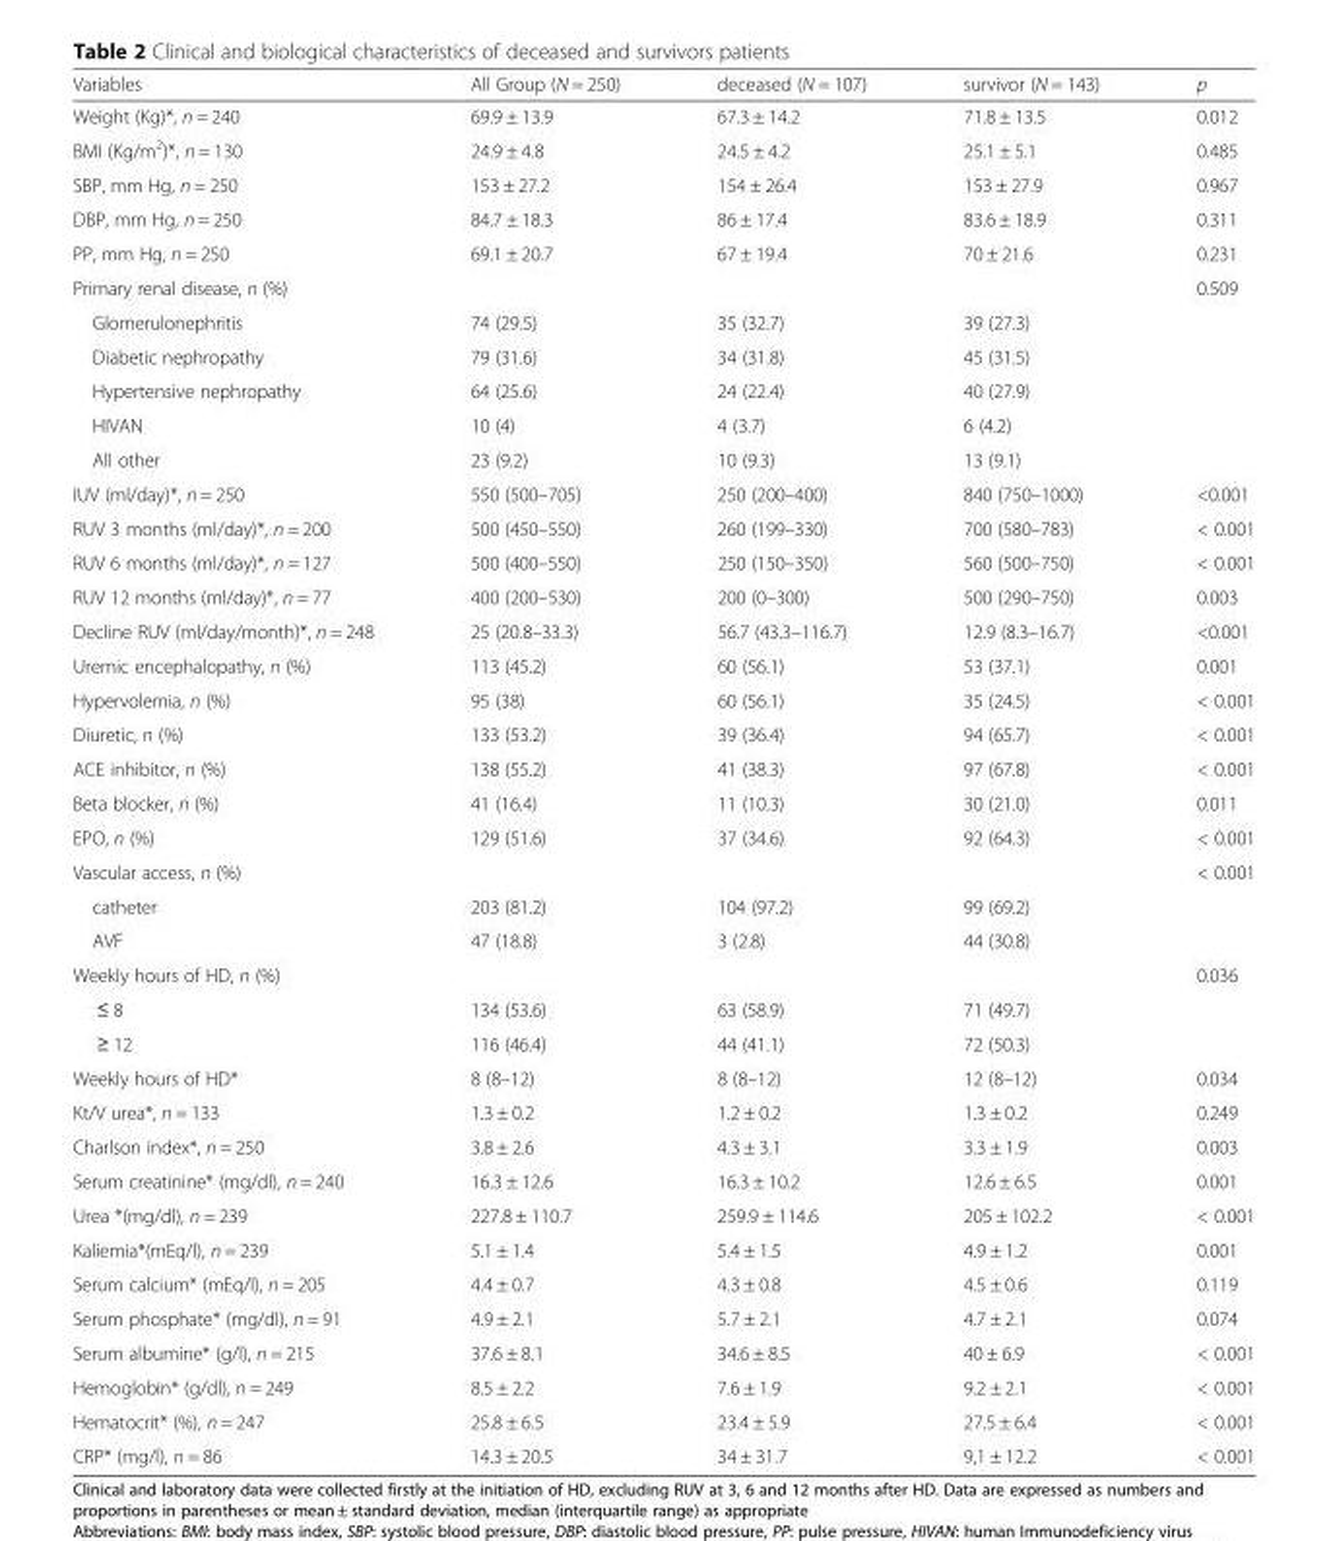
<table><thead><tr><td>Variables</td><td>All Group (N = 250)</td><td>deceased (N = 107)</td><td>survivor (N = 143)</td><td>p</td></tr></thead><tbody><tr><td>Weight (Kg)*, n = 240</td><td>69.9 ± 13.9</td><td>67.3 ± 14.2</td><td>71.8 ± 13.5</td><td>0.012</td></tr><tr><td>BMI (Kg/m<sup>2</sup>)*, n = 130</td><td>24.9 ± 4.8</td><td>24.5 ± 4.2</td><td>25.1 ± 5.1</td><td>0.485</td></tr><tr><td>SBP, mm Hg, n = 250</td><td>153 ± 27.2</td><td>154 ± 26.4</td><td>153 ± 27.9</td><td>0.967</td></tr><tr><td>DBP, mm Hg, n = 250</td><td>84.7 ± 18.3</td><td>86 ± 17.4</td><td>83.6 ± 18.9</td><td>0.311</td></tr><tr><td>PP, mm Hg, n = 250</td><td>69.1 ± 20.7</td><td>67 ± 19.4</td><td>70 ± 21.6</td><td>0.231</td></tr><tr><td colspan="4">Primary renal disease, n (%)</td><td rowspan="6">0.509</td></tr><tr><td>Glomerulonephritis</td><td>74 (29.5)</td><td>35 (32.7)</td><td>39 (27.3)</td></tr><tr><td>Diabetic nephropathy</td><td>79 (31.6)</td><td>34 (31.8)</td><td>45 (31.5)</td></tr><tr><td>Hypertensive nephropathy</td><td>64 (25.6)</td><td>24 (22.4)</td><td>40 (27.9)</td></tr><tr><td>HIVAN</td><td>10 (4)</td><td>4 (3.7)</td><td>6 (4.2)</td></tr><tr><td>All other</td><td>23 (9.2)</td><td>10 (9.3)</td><td>13 (9.1)</td></tr><tr><td>IUV (ml/day)*, n = 250</td><td>550 (500–705)</td><td>250 (200–400)</td><td>840 (750–1000)</td><td>&lt;0.001</td></tr><tr><td>RUV 3 months (ml/day)*, n = 200</td><td>500 (450–550)</td><td>260 (199–330)</td><td>700 (580–783)</td><td>&lt; 0.001</td></tr><tr><td>RUV 6 months (ml/day)*, n = 127</td><td>500 (400–550)</td><td>250 (150–350)</td><td>560 (500–750)</td><td>&lt; 0.001</td></tr><tr><td>RUV 12 months (ml/day)*, n = 77</td><td>400 (200–530)</td><td>200 (0–300)</td><td>500 (290–750)</td><td>0.003</td></tr><tr><td>Decline RUV (ml/day/month)*, n = 248</td><td>25 (20.8–33.3)</td><td>56.7 (43.3–116.7)</td><td>12.9 (8.3–16.7)</td><td>&lt;0.001</td></tr><tr><td>Uremic encephalopathy, n (%)</td><td>113 (45.2)</td><td>60 (56.1)</td><td>53 (37.1)</td><td>0.001</td></tr><tr><td>Hypervolemia, n (%)</td><td>95 (38)</td><td>60 (56.1)</td><td>35 (24.5)</td><td>&lt; 0.001</td></tr><tr><td>Diuretic, n (%)</td><td>133 (53.2)</td><td>39 (36.4)</td><td>94 (65.7)</td><td>&lt; 0.001</td></tr><tr><td>ACE inhibitor, n (%)</td><td>138 (55.2)</td><td>41 (38.3)</td><td>97 (67.8)</td><td>&lt; 0.001</td></tr><tr><td>Beta blocker, n (%)</td><td>41 (16.4)</td><td>11 (10.3)</td><td>30 (21.0)</td><td>0.011</td></tr><tr><td>EPO, n (%)</td><td>129 (51.6)</td><td>37 (34.6)</td><td>92 (64.3)</td><td>&lt; 0.001</td></tr><tr><td colspan="4">Vascular access, n (%)</td><td rowspan="3">&lt; 0.001</td></tr><tr><td>catheter</td><td>203 (81.2)</td><td>104 (97.2)</td><td>99 (69.2)</td></tr><tr><td>AVF</td><td>47 (18.8)</td><td>3 (2.8)</td><td>44 (30.8)</td></tr><tr><td colspan="4">Weekly hours of HD, n (%)</td><td rowspan="3">0.036</td></tr><tr><td>≤ 8</td><td>134 (53.6)</td><td>63 (58.9)</td><td>71 (49.7)</td></tr><tr><td>≥ 12</td><td>116 (46.4)</td><td>44 (41.1)</td><td>72 (50.3)</td></tr><tr><td>Weekly hours of HD*</td><td>8 (8–12)</td><td>8 (8–12)</td><td>12 (8–12)</td><td>0.034</td></tr><tr><td>Kt/V urea*, n = 133</td><td>1.3 ± 0.2</td><td>1.2 ± 0.2</td><td>1.3 ± 0.2</td><td>0.249</td></tr><tr><td>Charlson index*, n = 250</td><td>3.8 ± 2.6</td><td>4.3 ± 3.1</td><td>3.3 ± 1.9</td><td>0.003</td></tr><tr><td>Serum creatinine* (mg/dl), n = 240</td><td>16.3 ± 12.6</td><td>16.3 ± 10.2</td><td>12.6 ± 6.5</td><td>0.001</td></tr><tr><td>Urea *(mg/dl), n = 239</td><td>227.8 ± 110.7</td><td>259.9 ± 114.6</td><td>205 ± 102.2</td><td>&lt; 0.001</td></tr><tr><td>Kaliemia*(mEq/l), n = 239</td><td>5.1 ± 1.4</td><td>5.4 ± 1.5</td><td>4.9 ± 1.2</td><td>0.001</td></tr><tr><td>Serum calcium* (mEq/l), n = 205</td><td>4.4 ± 0.7</td><td>4.3 ± 0.8</td><td>4.5 ± 0.6</td><td>0.119</td></tr><tr><td>Serum phosphate* (mg/dl), n = 91</td><td>4.9 ± 2.1</td><td>5.7 ± 2.1</td><td>4.7 ± 2.1</td><td>0.074</td></tr><tr><td>Serum albumine* (g/l), n = 215</td><td>37.6 ± 8.1</td><td>34.6 ± 8.5</td><td>40 ± 6.9</td><td>&lt; 0.001</td></tr><tr><td>Hemoglobin* (g/dl), n = 249</td><td>8.5 ± 2.2</td><td>7.6 ± 1.9</td><td>9.2 ± 2.1</td><td>&lt; 0.001</td></tr><tr><td>Hematocrit* (%), n = 247</td><td>25.8 ± 6.5</td><td>23.4 ± 5.9</td><td>27.5 ± 6.4</td><td>&lt; 0.001</td></tr><tr><td>CRP* (mg/l), n = 86</td><td>14.3 ± 20.5</td><td>34 ± 31.7</td><td>9,1 ± 12.2</td><td>&lt; 0.001</td></tr></tbody></table>